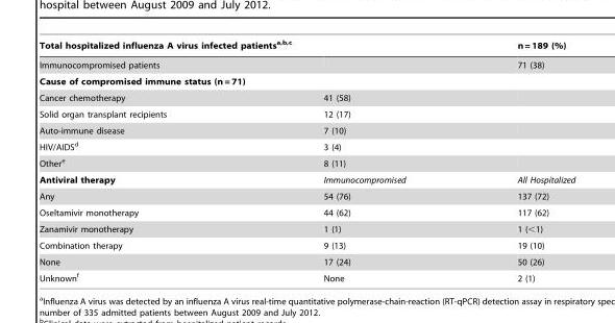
<table><thead><tr><td>Total hospitalized influenza A virus infected patients<sup>a,</sup>b<sup>,</sup>c</td><td></td><td>n = 189 (%)</td></tr></thead><tbody><tr><td>Immunocompromised patients</td><td></td><td>71 (38)</td></tr><tr><td colspan="3">Cause of compromised immune status (n = 71)</td></tr><tr><td>Cancer chemotherapy</td><td>41 (58)</td><td></td></tr><tr><td>Solid organ transplant recipients</td><td>12 (17)</td><td></td></tr><tr><td>Auto-immune disease</td><td>7 (10)</td><td></td></tr><tr><td>HIV/AIDS<sup>d</sup></td><td>3 (4)</td><td></td></tr><tr><td>Other<sup>e</sup></td><td>8 (11)</td><td></td></tr><tr><td>Antiviral therapy</td><td>Immunocompromised</td><td>All Hospitalized</td></tr><tr><td>Any</td><td>54 (76)</td><td>137 (72)</td></tr><tr><td>Oseltamivir monotherapy</td><td>44 (62)</td><td>117 (62)</td></tr><tr><td>Zanamivir monotherapy</td><td>1 (1)</td><td>1 (&lt;1)</td></tr><tr><td>Combination therapy</td><td>9 (13)</td><td>19 (10)</td></tr><tr><td>None</td><td>17 (24)</td><td>50 (26)</td></tr><tr><td>Unknown<sup>f</sup></td><td>None</td><td>2 (1)</td></tr></tbody></table>